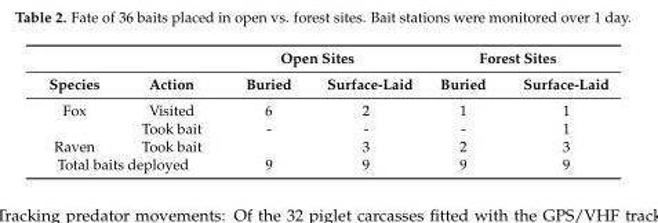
<table><thead><tr><td rowspan="2">Species</td><td rowspan="2">Action</td><td colspan="2">Open Sites</td><td colspan="2">Forest Sites</td></tr><tr><td>Buried</td><td>Surface-Laid</td><td>Buried</td><td>Surface-Laid</td></tr></thead><tbody><tr><td rowspan="2">Fox</td><td>Visited</td><td>6</td><td>2</td><td>1</td><td>1</td></tr><tr><td>Took bait</td><td>-</td><td>-</td><td>-</td><td>1</td></tr><tr><td>Raven</td><td>Took bait</td><td></td><td>3</td><td>2</td><td>3</td></tr><tr><td colspan="2">Total baits deployed</td><td>9</td><td>9</td><td>9</td><td>9</td></tr></tbody></table>